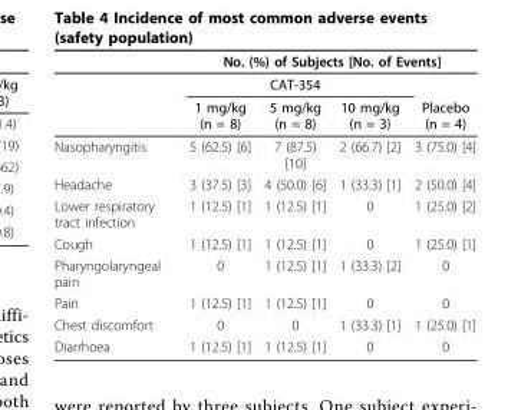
<table><thead><tr><td rowspan="3"></td><td colspan="4">No. (%) of Subjects [No. of Events]</td></tr><tr><td colspan="3">CAT-354</td><td rowspan="2">Placebo (n = 4)</td></tr><tr><td>1 mg/kg (n = 8)</td><td>5 mg/kg (n = 8)</td><td>10 mg/kg (n = 3)</td></tr></thead><tbody><tr><td>Nasopharyngitis</td><td>5 (62.5) [6]</td><td>7 (87.5) [10]</td><td>2 (66.7) [2]</td><td>3 (75.0) [4]</td></tr><tr><td>Headache</td><td>3 (37.5) [3]</td><td>4 (50.0) [6]</td><td>1 (33.3) [1]</td><td>2 (50.0) [4]</td></tr><tr><td>Lower respiratory tract infection</td><td>1 (12.5) [1]</td><td>1 (12.5) [1]</td><td>0</td><td>1 (25.0) [2]</td></tr><tr><td>Cough</td><td>1 (12.5) [1]</td><td>1 (12.5) [1]</td><td>0</td><td>1 (25.0) [1]</td></tr><tr><td>Pharyngolaryngeal pain</td><td>0</td><td>1 (12.5) [1]</td><td>1 (33.3) [2]</td><td>0</td></tr><tr><td>Pain</td><td>1 (12.5) [1]</td><td>1 (12.5) [1]</td><td>0</td><td>0</td></tr><tr><td>Chest discomfort</td><td>0</td><td>0</td><td>1 (33.3) [1]</td><td>1 (25.0) [1]</td></tr><tr><td>Diarrhoea</td><td>1 (12.5) [1]</td><td>1 (12.5) [1]</td><td>0</td><td>0</td></tr></tbody></table>